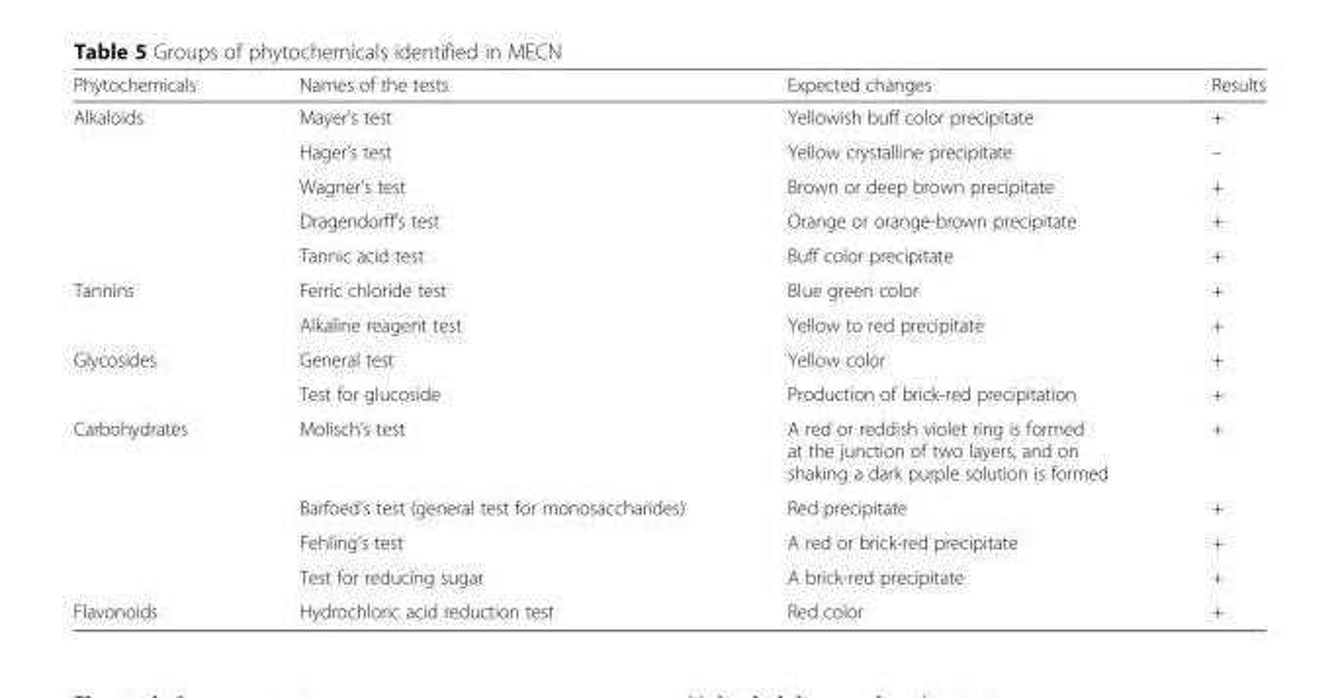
<table><thead><tr><td>Phytochemicals</td><td>Names of the tests</td><td>Expected changes</td><td>Results</td></tr></thead><tbody><tr><td rowspan="5">Alkaloids</td><td>Mayer’s test</td><td>Yellowish buff color precipitate</td><td>+</td></tr><tr><td>Hager’s test</td><td>Yellow crystalline precipitate</td><td>–</td></tr><tr><td>Wagner’s test</td><td>Brown or deep brown precipitate</td><td>+</td></tr><tr><td>Dragendorff’s test</td><td>Orange or orange-brown precipitate</td><td>+</td></tr><tr><td>Tannic acid test</td><td>Buff color precipitate</td><td>+</td></tr><tr><td rowspan="2">Tannins</td><td>Ferric chloride test</td><td>Blue green color</td><td>+</td></tr><tr><td>Alkaline reagent test</td><td>Yellow to red precipitate</td><td>+</td></tr><tr><td rowspan="2">Glycosides</td><td>General test</td><td>Yellow color</td><td>+</td></tr><tr><td>Test for glucoside</td><td>Production of brick-red precipitation</td><td>+</td></tr><tr><td rowspan="4">Carbohydrates</td><td>Molisch’s test</td><td>A red or reddish violet ring is formed at the junction of two layers, and on shaking a dark purple solution is formed</td><td>+</td></tr><tr><td>Barfoed’s test (general test for monosaccharides)</td><td>Red precipitate</td><td>+</td></tr><tr><td>Fehling’s test</td><td>A red or brick-red precipitate</td><td>+</td></tr><tr><td>Test for reducing sugar</td><td>A brick-red precipitate</td><td>+</td></tr><tr><td>Flavonoids</td><td>Hydrochloric acid reduction test</td><td>Red color</td><td>+</td></tr></tbody></table>